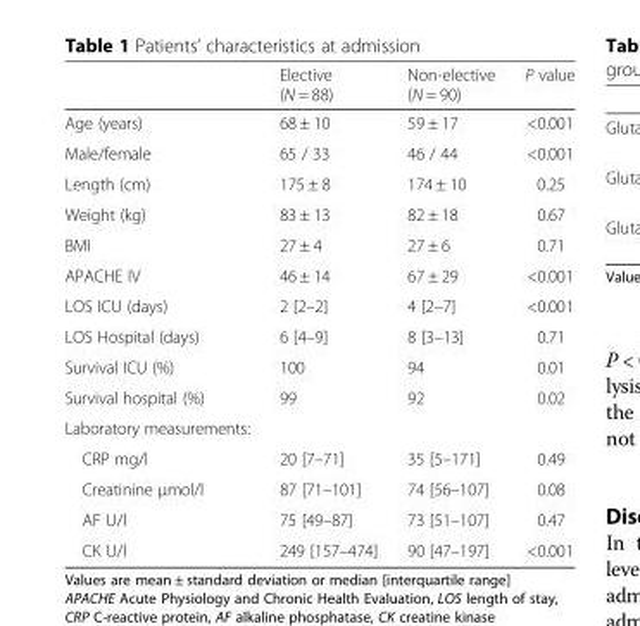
<table><thead><tr><td></td><td>Elective (N = 88)</td><td>Non-elective (N = 90)</td><td>P value</td></tr></thead><tbody><tr><td>Age (years)</td><td>68 ± 10</td><td>59 ± 17</td><td>&lt;0.001</td></tr><tr><td>Male/female</td><td>65 / 33</td><td>46 / 44</td><td>&lt;0.001</td></tr><tr><td>Length (cm)</td><td>175 ± 8</td><td>174 ± 10</td><td>0.25</td></tr><tr><td>Weight (kg)</td><td>83 ± 13</td><td>82 ± 18</td><td>0.67</td></tr><tr><td>BMI</td><td>27 ± 4</td><td>27 ± 6</td><td>0.71</td></tr><tr><td>APACHE IV</td><td>46 ± 14</td><td>67 ± 29</td><td>&lt;0.001</td></tr><tr><td>LOS ICU (days)</td><td>2 [2–2]</td><td>4 [2–7]</td><td>&lt;0.001</td></tr><tr><td>LOS Hospital (days)</td><td>6 [4–9]</td><td>8 [3–13]</td><td>0.71</td></tr><tr><td>Survival ICU (%)</td><td>100</td><td>94</td><td>0.01</td></tr><tr><td>Survival hospital (%)</td><td>99</td><td>92</td><td>0.02</td></tr><tr><td colspan="4">Laboratory measurements:</td></tr><tr><td>CRP mg/l</td><td>20 [7–71]</td><td>35 [5–171]</td><td>0.49</td></tr><tr><td>Creatinine μmol/l</td><td>87 [71–101]</td><td>74 [56–107]</td><td>0.08</td></tr><tr><td>AF U/l</td><td>75 [49–87]</td><td>73 [51–107]</td><td>0.47</td></tr><tr><td>CK U/l</td><td>249 [157–474]</td><td>90 [47–197]</td><td>&lt;0.001</td></tr></tbody></table>